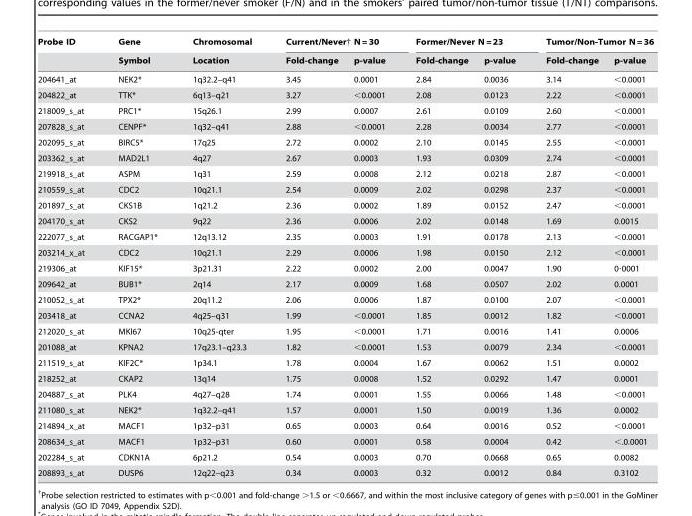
<table><thead><tr><td rowspan="2">Probe ID</td><td rowspan="2">Gene Symbol</td><td rowspan="2">Chromosomal Location</td><td colspan="2">Current/Never† N = 30</td><td colspan="2">Former/Never N = 23</td><td colspan="2">Tumor/Non-Tumor N = 36</td></tr><tr><td>Fold-change</td><td>p-value</td><td>Fold-change</td><td>p-value</td><td>Fold-change</td><td>p-value</td></tr></thead><tbody><tr><td>204641_at</td><td>NEK2*</td><td>1q32.2–q41</td><td>3.45</td><td>0.0001</td><td>2.84</td><td>0.0036</td><td>3.14</td><td>&lt;0.0001</td></tr><tr><td>204822_at</td><td>TTK*</td><td>6q13–q21</td><td>3.27</td><td>&lt;0.0001</td><td>2.08</td><td>0.0123</td><td>2.22</td><td>&lt;0.0001</td></tr><tr><td>218009_s_at</td><td>PRC1*</td><td>15q26.1</td><td>2.99</td><td>0.0007</td><td>2.61</td><td>0.0109</td><td>2.60</td><td>&lt;0.0001</td></tr><tr><td>207828_s_at</td><td>CENPF*</td><td>1q32–q41</td><td>2.88</td><td>&lt;0.0001</td><td>2.28</td><td>0.0034</td><td>2.77</td><td>&lt;0.0001</td></tr><tr><td>202095_s_at</td><td>BIRC5*</td><td>17q25</td><td>2.72</td><td>0.0002</td><td>2.10</td><td>0.0145</td><td>2.55</td><td>&lt;0.0001</td></tr><tr><td>203362_s_at</td><td>MAD2L1</td><td>4q27</td><td>2.67</td><td>0.0003</td><td>1.93</td><td>0.0309</td><td>2.74</td><td>&lt;0.0001</td></tr><tr><td>219918_s_at</td><td>ASPM</td><td>1q31</td><td>2.59</td><td>0.0008</td><td>2.12</td><td>0.0218</td><td>2.87</td><td>&lt;0.0001</td></tr><tr><td>210559_s_at</td><td>CDC2</td><td>10q21.1</td><td>2.54</td><td>0.0009</td><td>2.02</td><td>0.0298</td><td>2.37</td><td>&lt;0.0001</td></tr><tr><td>201897_s_at</td><td>CKS1B</td><td>1q21.2</td><td>2.36</td><td>0.0002</td><td>1.89</td><td>0.0152</td><td>2.47</td><td>&lt;0.0001</td></tr><tr><td>204170_s_at</td><td>CKS2</td><td>9q22</td><td>2.36</td><td>0.0006</td><td>2.02</td><td>0.0148</td><td>1.69</td><td>0.0015</td></tr><tr><td>222077_s_at</td><td>RACGAP1*</td><td>12q13.12</td><td>2.35</td><td>0.0003</td><td>1.91</td><td>0.0178</td><td>2.13</td><td>&lt;0.0001</td></tr><tr><td>203214_x_at</td><td>CDC2</td><td>10q21.1</td><td>2.29</td><td>0.0006</td><td>1.98</td><td>0.0150</td><td>2.12</td><td>&lt;0.0001</td></tr><tr><td>219306_at</td><td>KIF15*</td><td>3p21.31</td><td>2.22</td><td>0.0002</td><td>2.00</td><td>0.0047</td><td>1.90</td><td>0·0001</td></tr><tr><td>209642_at</td><td>BUB1*</td><td>2q14</td><td>2.17</td><td>0.0009</td><td>1.68</td><td>0.0507</td><td>2.02</td><td>0.0001</td></tr><tr><td>210052_s_at</td><td>TPX2*</td><td>20q11.2</td><td>2.06</td><td>0.0006</td><td>1.87</td><td>0.0100</td><td>2.07</td><td>&lt;0.0001</td></tr><tr><td>203418_at</td><td>CCNA2</td><td>4q25–q31</td><td>1.99</td><td>&lt;0.0001</td><td>1.85</td><td>0.0012</td><td>1.82</td><td>&lt;0.0001</td></tr><tr><td>212020_s_at</td><td>MKI67</td><td>10q25-qter</td><td>1.95</td><td>&lt;0.0001</td><td>1.71</td><td>0.0016</td><td>1.41</td><td>0.0006</td></tr><tr><td>201088_at</td><td>KPNA2</td><td>17q23.1–q23.3</td><td>1.82</td><td>&lt;0.0001</td><td>1.53</td><td>0.0079</td><td>2.34</td><td>&lt;0.0001</td></tr><tr><td>211519_s_at</td><td>KIF2C*</td><td>1p34.1</td><td>1.78</td><td>0.0004</td><td>1.67</td><td>0.0062</td><td>1.51</td><td>0.0002</td></tr><tr><td>218252_at</td><td>CKAP2</td><td>13q14</td><td>1.75</td><td>0.0008</td><td>1.52</td><td>0.0292</td><td>1.47</td><td>0.0001</td></tr><tr><td>204887_s_at</td><td>PLK4</td><td>4q27–q28</td><td>1.74</td><td>0.0001</td><td>1.55</td><td>0.0066</td><td>1.48</td><td>&lt;0.0001</td></tr><tr><td>211080_s_at</td><td>NEK2*</td><td>1q32.2–q41</td><td>1.57</td><td>0.0001</td><td>1.50</td><td>0.0019</td><td>1.36</td><td>0.0002</td></tr><tr><td>214894_x_at</td><td>MACF1</td><td>1p32–p31</td><td>0.65</td><td>0.0003</td><td>0.64</td><td>0.0016</td><td>0.52</td><td>&lt;0.0001</td></tr><tr><td>208634_s_at</td><td>MACF1</td><td>1p32–p31</td><td>0.60</td><td>0.0001</td><td>0.58</td><td>0.0004</td><td>0.42</td><td>&lt;.0.0001</td></tr><tr><td>202284_s_at</td><td>CDKN1A</td><td>6p21.2</td><td>0.54</td><td>0.0003</td><td>0.70</td><td>0.0668</td><td>0.65</td><td>0.0082</td></tr><tr><td>208893_s_at</td><td>DUSP6</td><td>12q22–q23</td><td>0.34</td><td>0.0003</td><td>0.32</td><td>0.0012</td><td>0.84</td><td>0.3102</td></tr></tbody></table>